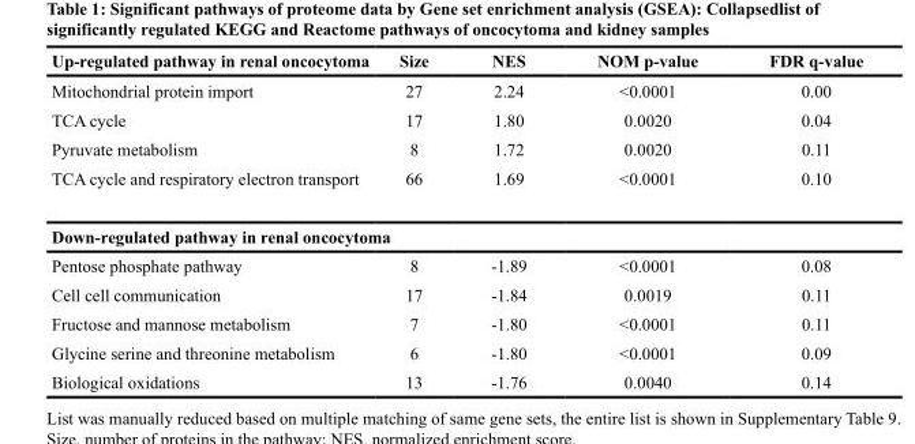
<table><thead><tr><td>Up-regulated pathway in renal oncocytoma</td><td>Size</td><td>NES</td><td>NOM p-value</td><td>FDR q-value</td></tr></thead><tbody><tr><td>Mitochondrial protein import</td><td>27</td><td>2.24</td><td>&lt;0.0001</td><td>0.00</td></tr><tr><td>TCA cycle</td><td>17</td><td>1.80</td><td>0.0020</td><td>0.04</td></tr><tr><td>Pyruvate metabolism</td><td>8</td><td>1.72</td><td>0.0020</td><td>0.11</td></tr><tr><td>TCA cycle and respiratory electron transport</td><td>66</td><td>1.69</td><td>&lt;0.0001</td><td>0.10</td></tr><tr><td colspan="5">Down-regulated pathway in renal oncocytoma</td></tr><tr><td>Pentose phosphate pathway</td><td>8</td><td>-1.89</td><td>&lt;0.0001</td><td>0.08</td></tr><tr><td>Cell cell communication</td><td>17</td><td>-1.84</td><td>0.0019</td><td>0.11</td></tr><tr><td>Fructose and mannose metabolism</td><td>7</td><td>-1.80</td><td>&lt;0.0001</td><td>0.11</td></tr><tr><td>Glycine serine and threonine metabolism</td><td>6</td><td>-1.80</td><td>&lt;0.0001</td><td>0.09</td></tr><tr><td>Biological oxidations</td><td>13</td><td>-1.76</td><td>0.0040</td><td>0.14</td></tr></tbody></table>